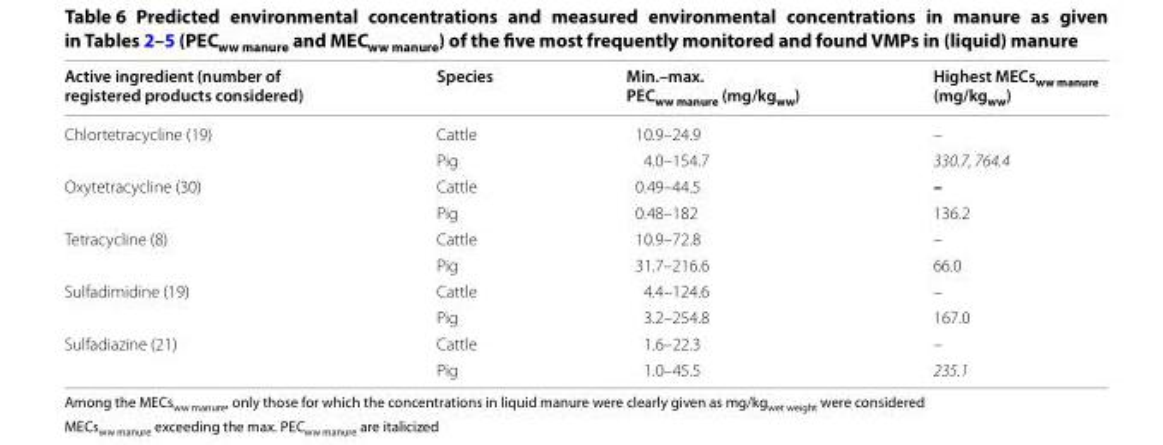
<table><thead><tr><td>Active ingredient (number of registered products considered)</td><td>Species</td><td>Min.–max. PEC<sub>ww manure</sub> (mg/kg<sub>ww</sub>)</td><td>Highest MECs<sub>ww manure</sub> (mg/kg<sub>ww</sub>)</td></tr></thead><tbody><tr><td rowspan="2">Chlortetracycline (19)</td><td>Cattle</td><td>10.9–24.9</td><td>–</td></tr><tr><td>Pig</td><td>4.0–154.7</td><td>330.7, 764.4</td></tr><tr><td rowspan="2">Oxytetracycline (30)</td><td>Cattle</td><td>0.49–44.5</td><td>–</td></tr><tr><td>Pig</td><td>0.48–182</td><td>136.2</td></tr><tr><td rowspan="2">Tetracycline (8)</td><td>Cattle</td><td>10.9–72.8</td><td>–</td></tr><tr><td>Pig</td><td>31.7–216.6</td><td>66.0</td></tr><tr><td rowspan="2">Sulfadimidine (19)</td><td>Cattle</td><td>4.4–124.6</td><td>–</td></tr><tr><td>Pig</td><td>3.2–254.8</td><td>167.0</td></tr><tr><td rowspan="2">Sulfadiazine (21)</td><td>Cattle</td><td>1.6–22.3</td><td>–</td></tr><tr><td>Pig</td><td>1.0–45.5</td><td>235.1</td></tr></tbody></table>